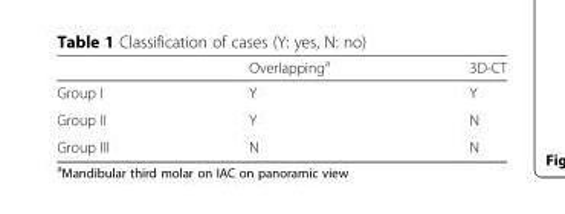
<table><thead><tr><td></td><td>Overlapping<sup>a</sup></td><td>3D-CT</td></tr></thead><tbody><tr><td>Group I</td><td>Y</td><td>Y</td></tr><tr><td>Group II</td><td>Y</td><td>N</td></tr><tr><td>Group III</td><td>N</td><td>N</td></tr></tbody></table>